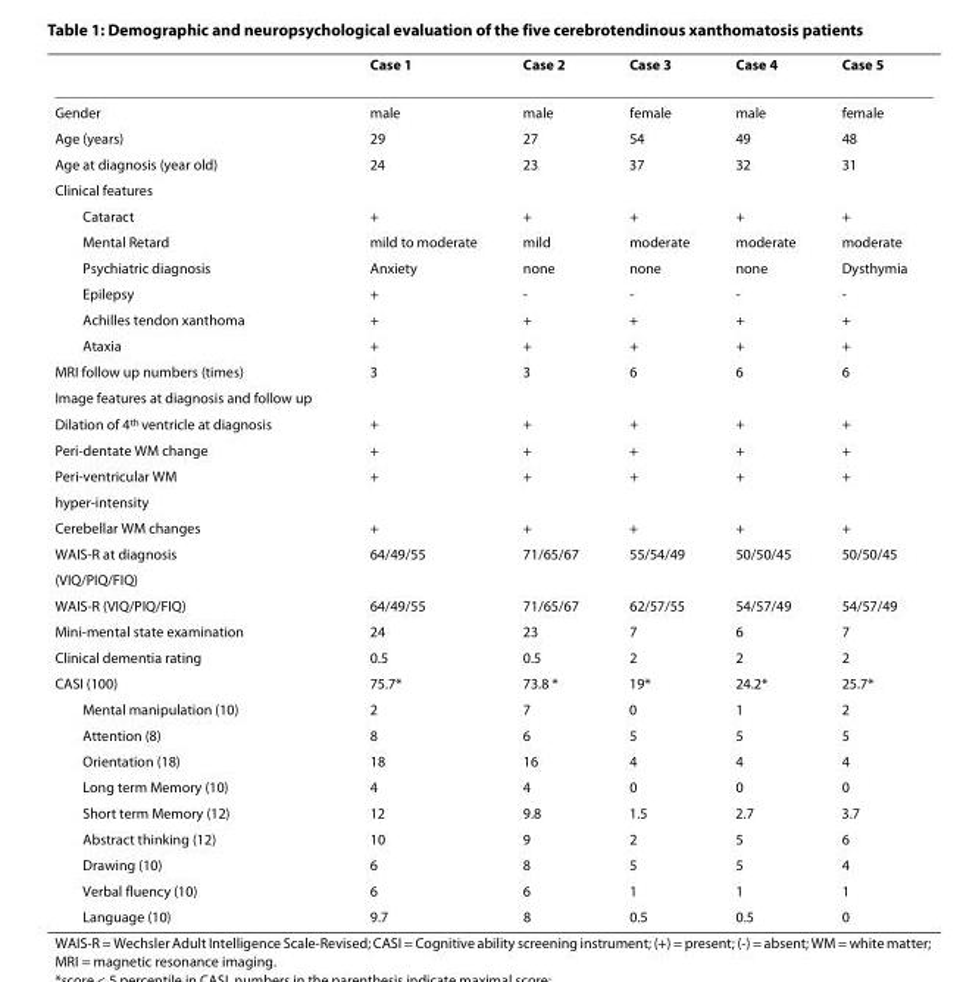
<table><thead><tr><td></td><td>Case 1</td><td>Case 2</td><td>Case 3</td><td>Case 4</td><td>Case 5</td></tr></thead><tbody><tr><td>Gender</td><td>male</td><td>male</td><td>female</td><td>male</td><td>female</td></tr><tr><td>Age (years)</td><td>29</td><td>27</td><td>54</td><td>49</td><td>48</td></tr><tr><td>Age at diagnosis (year old)</td><td>24</td><td>23</td><td>37</td><td>32</td><td>31</td></tr><tr><td colspan="6">Clinical features</td></tr><tr><td>Cataract</td><td>+</td><td>+</td><td>+</td><td>+</td><td>+</td></tr><tr><td>Mental Retard</td><td>mild to moderate</td><td>mild</td><td>moderate</td><td>moderate</td><td>moderate</td></tr><tr><td>Psychiatric diagnosis</td><td>Anxiety</td><td>none</td><td>none</td><td>none</td><td>Dysthymia</td></tr><tr><td>Epilepsy</td><td>+</td><td>-</td><td>-</td><td>-</td><td>-</td></tr><tr><td>Achilles tendon xanthoma</td><td>+</td><td>+</td><td>+</td><td>+</td><td>+</td></tr><tr><td>Ataxia</td><td>+</td><td>+</td><td>+</td><td>+</td><td>+</td></tr><tr><td>MRI follow up numbers (times)</td><td>3</td><td>3</td><td>6</td><td>6</td><td>6</td></tr><tr><td colspan="6">Image features at diagnosis and follow up</td></tr><tr><td>Dilation of 4<sup>th</sup> ventricle at diagnosis</td><td>+</td><td>+</td><td>+</td><td>+</td><td>+</td></tr><tr><td>Peri-dentate WM change</td><td>+</td><td>+</td><td>+</td><td>+</td><td>+</td></tr><tr><td>Peri-ventricular WM</td><td>+</td><td>+</td><td>+</td><td>+</td><td>+</td></tr><tr><td colspan="6">hyper-intensity</td></tr><tr><td>Cerebellar WM changes</td><td>+</td><td>+</td><td>+</td><td>+</td><td>+</td></tr><tr><td>WAIS-R at diagnosis</td><td>64/49/55</td><td>71/65/67</td><td>55/54/49</td><td>50/50/45</td><td>50/50/45</td></tr><tr><td colspan="6">(VIQ/PIQ/FIQ)</td></tr><tr><td>WAIS-R (VIQ/PIQ/FIQ)</td><td>64/49/55</td><td>71/65/67</td><td>62/57/55</td><td>54/57/49</td><td>54/57/49</td></tr><tr><td>Mini-mental state examination</td><td>24</td><td>23</td><td>7</td><td>6</td><td>7</td></tr><tr><td>Clinical dementia rating</td><td>0.5</td><td>0.5</td><td>2</td><td>2</td><td>2</td></tr><tr><td>CASI (100)</td><td>75.7*</td><td>73.8 *</td><td>19*</td><td>24.2*</td><td>25.7*</td></tr><tr><td>Mental manipulation (10)</td><td>2</td><td>7</td><td>0</td><td>1</td><td>2</td></tr><tr><td>Attention (8)</td><td>8</td><td>6</td><td>5</td><td>5</td><td>5</td></tr><tr><td>Orientation (18)</td><td>18</td><td>16</td><td>4</td><td>4</td><td>4</td></tr><tr><td>Long term Memory (10)</td><td>4</td><td>4</td><td>0</td><td>0</td><td>0</td></tr><tr><td>Short term Memory (12)</td><td>12</td><td>9.8</td><td>1.5</td><td>2.7</td><td>3.7</td></tr><tr><td>Abstract thinking (12)</td><td>10</td><td>9</td><td>2</td><td>5</td><td>6</td></tr><tr><td>Drawing (10)</td><td>6</td><td>8</td><td>5</td><td>5</td><td>4</td></tr><tr><td>Verbal fluency (10)</td><td>6</td><td>6</td><td>1</td><td>1</td><td>1</td></tr><tr><td>Language (10)</td><td>9.7</td><td>8</td><td>0.5</td><td>0.5</td><td>0</td></tr></tbody></table>